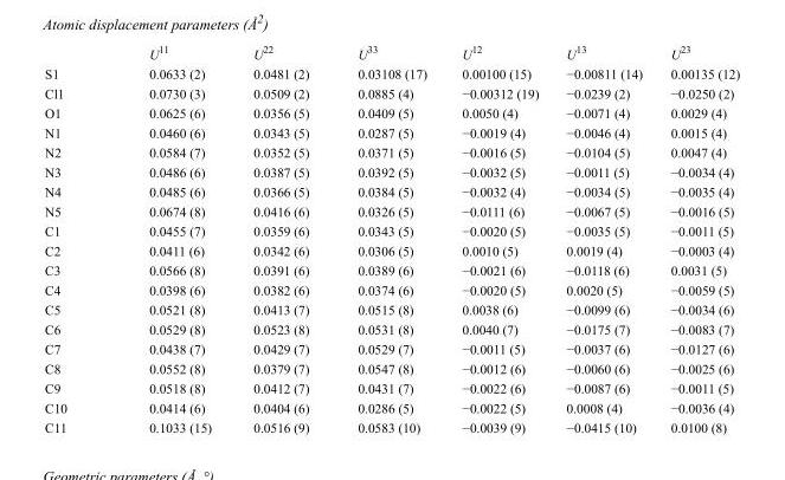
<table><thead><tr><td></td><td>U<sup>11</sup></td><td>U<sup>22</sup></td><td>U<sup>33</sup></td><td>U<sup>12</sup></td><td>U<sup>13</sup></td><td>U<sup>23</sup></td></tr></thead><tbody><tr><td>S1</td><td>0.0633 (2)</td><td>0.0481 (2)</td><td>0.03108 (17)</td><td>0.00100 (15)</td><td>−0.00811 (14)</td><td>0.00135 (12)</td></tr><tr><td>Cl1</td><td>0.0730 (3)</td><td>0.0509 (2)</td><td>0.0885 (4)</td><td>−0.00312 (19)</td><td>−0.0239 (2)</td><td>−0.0250 (2)</td></tr><tr><td>O1</td><td>0.0625 (6)</td><td>0.0356 (5)</td><td>0.0409 (5)</td><td>0.0050 (4)</td><td>−0.0071 (4)</td><td>0.0029 (4)</td></tr><tr><td>N1</td><td>0.0460 (6)</td><td>0.0343 (5)</td><td>0.0287 (5)</td><td>−0.0019 (4)</td><td>−0.0046 (4)</td><td>0.0015 (4)</td></tr><tr><td>N2</td><td>0.0584 (7)</td><td>0.0352 (5)</td><td>0.0371 (5)</td><td>−0.0016 (5)</td><td>−0.0104 (5)</td><td>0.0047 (4)</td></tr><tr><td>N3</td><td>0.0486 (6)</td><td>0.0387 (5)</td><td>0.0392 (5)</td><td>−0.0032 (5)</td><td>−0.0011 (5)</td><td>−0.0034 (4)</td></tr><tr><td>N4</td><td>0.0485 (6)</td><td>0.0366 (5)</td><td>0.0384 (5)</td><td>−0.0032 (4)</td><td>−0.0034 (5)</td><td>−0.0035 (4)</td></tr><tr><td>N5</td><td>0.0674 (8)</td><td>0.0416 (6)</td><td>0.0326 (5)</td><td>−0.0111 (6)</td><td>−0.0067 (5)</td><td>−0.0016 (5)</td></tr><tr><td>C1</td><td>0.0455 (7)</td><td>0.0359 (6)</td><td>0.0343 (5)</td><td>−0.0020 (5)</td><td>−0.0035 (5)</td><td>−0.0011 (5)</td></tr><tr><td>C2</td><td>0.0411 (6)</td><td>0.0342 (6)</td><td>0.0306 (5)</td><td>0.0010 (5)</td><td>0.0019 (4)</td><td>−0.0003 (4)</td></tr><tr><td>C3</td><td>0.0566 (8)</td><td>0.0391 (6)</td><td>0.0389 (6)</td><td>−0.0021 (6)</td><td>−0.0118 (6)</td><td>0.0031 (5)</td></tr><tr><td>C4</td><td>0.0398 (6)</td><td>0.0382 (6)</td><td>0.0374 (6)</td><td>−0.0020 (5)</td><td>0.0020 (5)</td><td>−0.0059 (5)</td></tr><tr><td>C5</td><td>0.0521 (8)</td><td>0.0413 (7)</td><td>0.0515 (8)</td><td>0.0038 (6)</td><td>−0.0099 (6)</td><td>−0.0034 (6)</td></tr><tr><td>C6</td><td>0.0529 (8)</td><td>0.0523 (8)</td><td>0.0531 (8)</td><td>0.0040 (7)</td><td>−0.0175 (7)</td><td>−0.0083 (7)</td></tr><tr><td>C7</td><td>0.0438 (7)</td><td>0.0429 (7)</td><td>0.0529 (7)</td><td>−0.0011 (5)</td><td>−0.0037 (6)</td><td>−0.0127 (6)</td></tr><tr><td>C8</td><td>0.0552 (8)</td><td>0.0379 (7)</td><td>0.0547 (8)</td><td>−0.0012 (6)</td><td>−0.0060 (6)</td><td>−0.0025 (6)</td></tr><tr><td>C9</td><td>0.0518 (8)</td><td>0.0412 (7)</td><td>0.0431 (7)</td><td>−0.0022 (6)</td><td>−0.0087 (6)</td><td>−0.0011 (5)</td></tr><tr><td>C10</td><td>0.0414 (6)</td><td>0.0404 (6)</td><td>0.0286 (5)</td><td>−0.0022 (5)</td><td>0.0008 (4)</td><td>−0.0036 (4)</td></tr><tr><td>C11</td><td>0.1033 (15)</td><td>0.0516 (9)</td><td>0.0583 (10)</td><td>−0.0039 (9)</td><td>−0.0415 (10)</td><td>0.0100 (8)</td></tr></tbody></table>